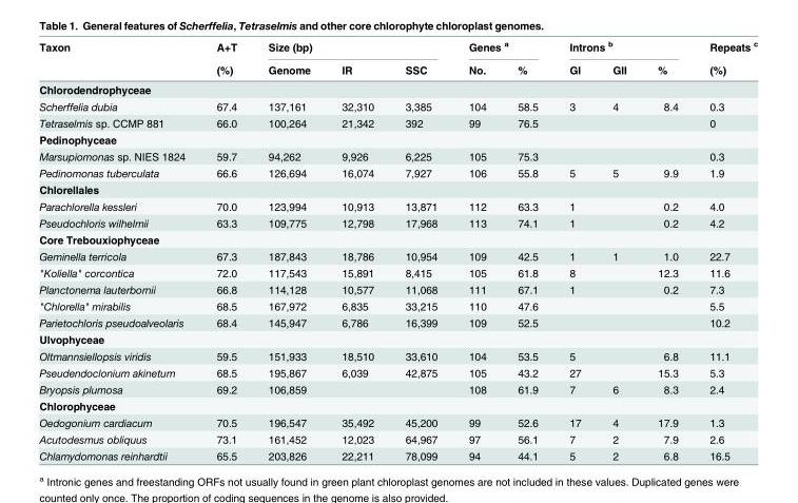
<table><thead><tr><td rowspan="2">Taxon</td><td rowspan="2">A+T (%)</td><td colspan="3">Size (bp)</td><td colspan="2">Genes <sup>a</sup></td><td colspan="3">Introns <sup>b</sup></td><td rowspan="2">Repeats <sup>c</sup> (%)</td></tr><tr><td>Genome</td><td>IR</td><td>SSC</td><td>No.</td><td>%</td><td>GI</td><td>GII</td><td>%</td></tr></thead><tbody><tr><td colspan="11">Chlorodendrophyceae</td></tr><tr><td>Scherffelia dubia</td><td>67.4</td><td>137,161</td><td>32,310</td><td>3,385</td><td>104</td><td>58.5</td><td>3</td><td>4</td><td>8.4</td><td>0.3</td></tr><tr><td>Tetraselmis sp. CCMP 881</td><td>66.0</td><td>100,264</td><td>21,342</td><td>392</td><td>99</td><td>76.5</td><td></td><td></td><td></td><td>0</td></tr><tr><td colspan="11">Pedinophyceae</td></tr><tr><td>Marsupiomonas sp. NIES 1824</td><td>59.7</td><td>94,262</td><td>9,926</td><td>6,225</td><td>105</td><td>75.3</td><td></td><td></td><td></td><td>0.3</td></tr><tr><td>Pedinomonas tuberculata</td><td>66.6</td><td>126,694</td><td>16,074</td><td>7,927</td><td>106</td><td>55.8</td><td>5</td><td>5</td><td>9.9</td><td>1.9</td></tr><tr><td colspan="11">Chlorellales</td></tr><tr><td>Parachlorella kessleri</td><td>70.0</td><td>123,994</td><td>10,913</td><td>13,871</td><td>112</td><td>63.3</td><td>1</td><td></td><td>0.2</td><td>4.0</td></tr><tr><td>Pseudochloris wilhelmii</td><td>63.3</td><td>109,775</td><td>12,798</td><td>17,968</td><td>113</td><td>74.1</td><td>1</td><td></td><td>0.2</td><td>4.2</td></tr><tr><td colspan="11">Core Trebouxiophyceae</td></tr><tr><td>Geminella terricola</td><td>67.3</td><td>187,843</td><td>18,786</td><td>10,954</td><td>109</td><td>42.5</td><td>1</td><td>1</td><td>1.0</td><td>22.7</td></tr><tr><td>&quot;Koliella&quot; corcontica</td><td>72.0</td><td>117,543</td><td>15,891</td><td>8,415</td><td>105</td><td>61.8</td><td>8</td><td></td><td>12.3</td><td>11.6</td></tr><tr><td>Planctonema lauterbornii</td><td>66.8</td><td>114,128</td><td>10,577</td><td>11,068</td><td>111</td><td>67.1</td><td>1</td><td></td><td>0.2</td><td>7.3</td></tr><tr><td>&quot;Chlorella&quot; mirabilis</td><td>68.5</td><td>167,972</td><td>6,835</td><td>33,215</td><td>110</td><td>47.6</td><td></td><td></td><td></td><td>5.5</td></tr><tr><td>Parietochloris pseudoalveolaris</td><td>68.4</td><td>145,947</td><td>6,786</td><td>16,399</td><td>109</td><td>52.5</td><td></td><td></td><td></td><td>10.2</td></tr><tr><td colspan="11">Ulvophyceae</td></tr><tr><td>Oltmannsiellopsis viridis</td><td>59.5</td><td>151,933</td><td>18,510</td><td>33,610</td><td>104</td><td>53.5</td><td>5</td><td></td><td>6.8</td><td>11.1</td></tr><tr><td>Pseudendoclonium akinetum</td><td>68.5</td><td>195,867</td><td>6,039</td><td>42,875</td><td>105</td><td>43.2</td><td>27</td><td></td><td>15.3</td><td>5.3</td></tr><tr><td>Bryopsis plumosa</td><td>69.2</td><td>106,859</td><td></td><td></td><td>108</td><td>61.9</td><td>7</td><td>6</td><td>8.3</td><td>2.4</td></tr><tr><td colspan="11">Chlorophyceae</td></tr><tr><td>Oedogonium cardiacum</td><td>70.5</td><td>196,547</td><td>35,492</td><td>45,200</td><td>99</td><td>52.6</td><td>17</td><td>4</td><td>17.9</td><td>1.3</td></tr><tr><td>Acutodesmus obliquus</td><td>73.1</td><td>161,452</td><td>12,023</td><td>64,967</td><td>97</td><td>56.1</td><td>7</td><td>2</td><td>7.9</td><td>2.6</td></tr><tr><td>Chlamydomonas reinhardtii</td><td>65.5</td><td>203,826</td><td>22,211</td><td>78,099</td><td>94</td><td>44.1</td><td>5</td><td>2</td><td>6.8</td><td>16.5</td></tr></tbody></table>